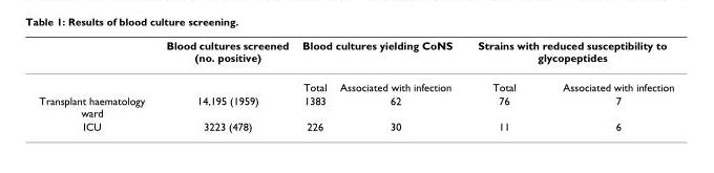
<table><thead><tr><td rowspan="2"></td><td rowspan="2">Blood cultures screened (no. positive)</td><td colspan="2">Blood cultures yielding CoNS</td><td colspan="2">Strains with reduced susceptibility to glycopeptides</td></tr><tr><td>Total</td><td>Associated with infection</td><td>Total</td><td>Associated with infection</td></tr></thead><tbody><tr><td>Transplant haematology ward</td><td>14,195 (1959)</td><td>1383</td><td>62</td><td>76</td><td>7</td></tr><tr><td>ICU</td><td>3223 (478)</td><td>226</td><td>30</td><td>11</td><td>6</td></tr></tbody></table>